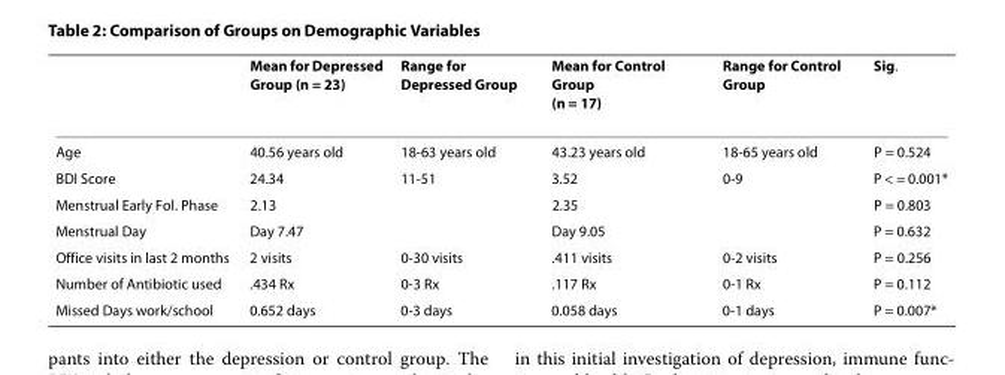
<table><thead><tr><td></td><td>Mean for Depressed Group (n = 23)</td><td>Range for Depressed Group</td><td>Mean for Control Group (n = 17)</td><td>Range for Control Group</td><td>Sig.</td></tr></thead><tbody><tr><td>Age</td><td>40.56 years old</td><td>18-63 years old</td><td>43.23 years old</td><td>18-65 years old</td><td>P = 0.524</td></tr><tr><td>BDI Score</td><td>24.34</td><td>11-51</td><td>3.52</td><td>0-9</td><td>P &lt; = 0.001*</td></tr><tr><td>Menstrual Early Fol. Phase</td><td>2.13</td><td></td><td>2.35</td><td></td><td>P = 0.803</td></tr><tr><td>Menstrual Day</td><td>Day 7.47</td><td></td><td>Day 9.05</td><td></td><td>P = 0.632</td></tr><tr><td>Office visits in last 2 months</td><td>2 visits</td><td>0-30 visits</td><td>.411 visits</td><td>0-2 visits</td><td>P = 0.256</td></tr><tr><td>Number of Antibiotic used</td><td>.434 Rx</td><td>0-3 Rx</td><td>.117 Rx</td><td>0-1 Rx</td><td>P = 0.112</td></tr><tr><td>Missed Days work/school</td><td>0.652 days</td><td>0-3 days</td><td>0.058 days</td><td>0-1 days</td><td>P = 0.007*</td></tr></tbody></table>